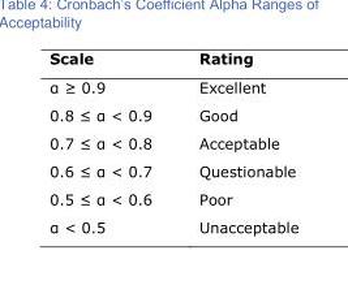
<table><thead><tr><td>Scale</td><td>Rating</td></tr></thead><tbody><tr><td>α ≥ 0.9</td><td>Excellent</td></tr><tr><td>0.8 ≤ α &lt; 0.9</td><td>Good</td></tr><tr><td>0.7 ≤ α &lt; 0.8</td><td>Acceptable</td></tr><tr><td>0.6 ≤ α &lt; 0.7</td><td>Questionable</td></tr><tr><td>0.5 ≤ α &lt; 0.6</td><td>Poor</td></tr><tr><td>α &lt; 0.5</td><td>Unacceptable</td></tr></tbody></table>